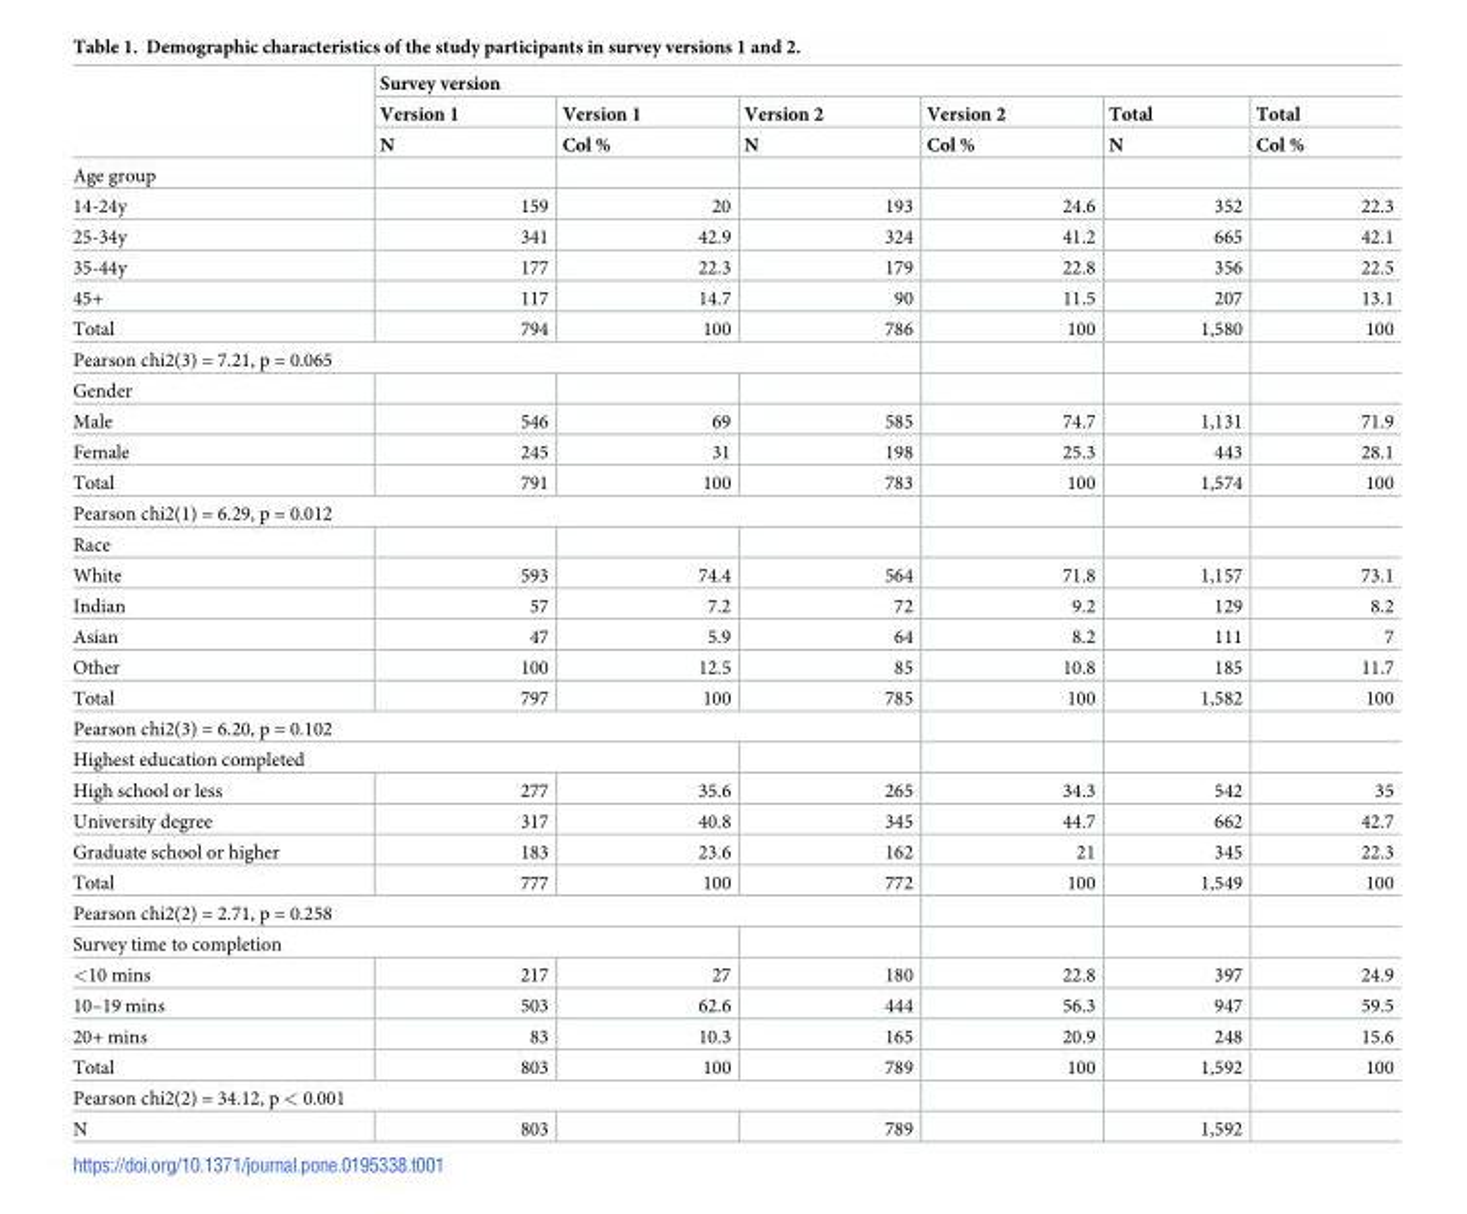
<table><thead><tr><td rowspan="3"></td><td colspan="6">Survey version</td></tr><tr><td rowspan="2">Version 1 N</td><td rowspan="2">Version 1 Col %</td><td rowspan="2">Version 2 N</td><td rowspan="2">Version 2 Col %</td><td rowspan="2">Total N</td><td rowspan="2">Total Col %</td></tr><tr></tr></thead><tbody><tr><td colspan="7">Age group</td></tr><tr><td>14-24y</td><td>159</td><td>20</td><td>193</td><td>24.6</td><td>352</td><td>22.3</td></tr><tr><td>25-34y</td><td>341</td><td>42.9</td><td>324</td><td>41.2</td><td>665</td><td>42.1</td></tr><tr><td>35-44y</td><td>177</td><td>22.3</td><td>179</td><td>22.8</td><td>356</td><td>22.5</td></tr><tr><td>45+</td><td>117</td><td>14.7</td><td>90</td><td>11.5</td><td>207</td><td>13.1</td></tr><tr><td>Total</td><td>794</td><td>100</td><td>786</td><td>100</td><td>1,580</td><td>100</td></tr><tr><td colspan="7">Pearson chi2(3) = 7.21, p = 0.065</td></tr><tr><td colspan="7">Gender</td></tr><tr><td>Male</td><td>546</td><td>69</td><td>585</td><td>74.7</td><td>1,131</td><td>71.9</td></tr><tr><td>Female</td><td>245</td><td>31</td><td>198</td><td>25.3</td><td>443</td><td>28.1</td></tr><tr><td>Total</td><td>791</td><td>100</td><td>783</td><td>100</td><td>1,574</td><td>100</td></tr><tr><td colspan="7">Pearson chi2(1) = 6.29, p = 0.012</td></tr><tr><td colspan="7">Race</td></tr><tr><td>White</td><td>593</td><td>74.4</td><td>564</td><td>71.8</td><td>1,157</td><td>73.1</td></tr><tr><td>Indian</td><td>57</td><td>7.2</td><td>72</td><td>9.2</td><td>129</td><td>8.2</td></tr><tr><td>Asian</td><td>47</td><td>5.9</td><td>64</td><td>8.2</td><td>111</td><td>7</td></tr><tr><td>Other</td><td>100</td><td>12.5</td><td>85</td><td>10.8</td><td>185</td><td>11.7</td></tr><tr><td>Total</td><td>797</td><td>100</td><td>785</td><td>100</td><td>1,582</td><td>100</td></tr><tr><td colspan="7">Pearson chi2(3) = 6.20, p = 0.102</td></tr><tr><td colspan="7">Highest education completed</td></tr><tr><td>High school or less</td><td>277</td><td>35.6</td><td>265</td><td>34.3</td><td>542</td><td>35</td></tr><tr><td>University degree</td><td>317</td><td>40.8</td><td>345</td><td>44.7</td><td>662</td><td>42.7</td></tr><tr><td>Graduate school or higher</td><td>183</td><td>23.6</td><td>162</td><td>21</td><td>345</td><td>22.3</td></tr><tr><td>Total</td><td>777</td><td>100</td><td>772</td><td>100</td><td>1,549</td><td>100</td></tr><tr><td colspan="7">Pearson chi2(2) = 2.71, p = 0.258</td></tr><tr><td colspan="7">Survey time to completion</td></tr><tr><td>&lt;10 mins</td><td>217</td><td>27</td><td>180</td><td>22.8</td><td>397</td><td>24.9</td></tr><tr><td>10–19 mins</td><td>503</td><td>62.6</td><td>444</td><td>56.3</td><td>947</td><td>59.5</td></tr><tr><td>20+ mins</td><td>83</td><td>10.3</td><td>165</td><td>20.9</td><td>248</td><td>15.6</td></tr><tr><td>Total</td><td>803</td><td>100</td><td>789</td><td>100</td><td>1,592</td><td>100</td></tr><tr><td colspan="7">Pearson chi2(2) = 34.12, p &lt; 0.001</td></tr><tr><td>N</td><td>803</td><td></td><td>789</td><td></td><td>1,592</td><td></td></tr></tbody></table>